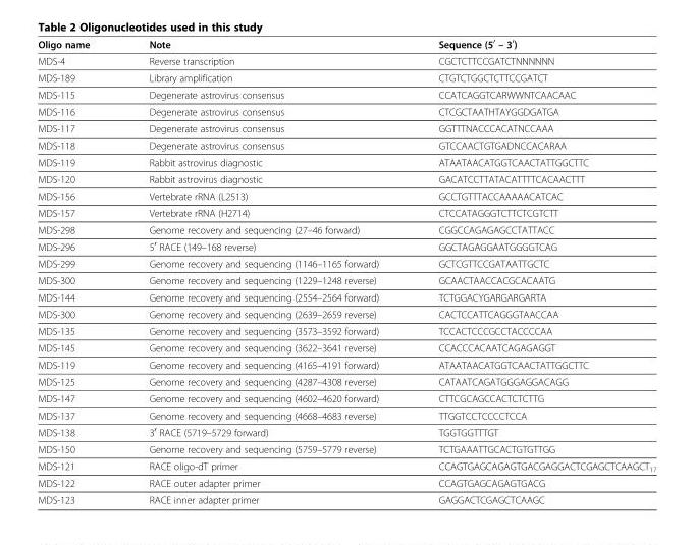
<table><thead><tr><td>Oligo name</td><td>Note</td><td>Sequence (5<sup>′</sup> – 3<sup>′</sup>)</td></tr></thead><tbody><tr><td>MDS-4</td><td>Reverse transcription</td><td>CGCTCTTCCGATCTNNNNNN</td></tr><tr><td>MDS-189</td><td>Library amplification</td><td>CTGTCTGGCTCTTCCGATCT</td></tr><tr><td>MDS-115</td><td>Degenerate astrovirus consensus</td><td>CCATCAGGTCARWWNTCAACAAC</td></tr><tr><td>MDS-116</td><td>Degenerate astrovirus consensus</td><td>CTCGCTAATHTAYGGDGATGA</td></tr><tr><td>MDS-117</td><td>Degenerate astrovirus consensus</td><td>GGTTTNACCCACATNCCAAA</td></tr><tr><td>MDS-118</td><td>Degenerate astrovirus consensus</td><td>GTCCAACTGTGADNCCACARAA</td></tr><tr><td>MDS-119</td><td>Rabbit astrovirus diagnostic</td><td>ATAATAACATGGTCAACTATTGGCTTC</td></tr><tr><td>MDS-120</td><td>Rabbit astrovirus diagnostic</td><td>GACATCCTTATACATTTTCACAACTTT</td></tr><tr><td>MDS-156</td><td>Vertebrate rRNA (L2513)</td><td>GCCTGTTTACCAAAAACATCAC</td></tr><tr><td>MDS-157</td><td>Vertebrate rRNA (H2714)</td><td>CTCCATAGGGTCTTCTCGTCTT</td></tr><tr><td>MDS-298</td><td>Genome recovery and sequencing (27–46 forward)</td><td>CGGCCAGAGAGCCTATTACC</td></tr><tr><td>MDS-296</td><td>5<sup>′</sup> RACE (149–168 reverse)</td><td>GGCTAGAGGAATGGGGTCAG</td></tr><tr><td>MDS-299</td><td>Genome recovery and sequencing (1146–1165 forward)</td><td>GCTCGTTCCGATAATTGCTC</td></tr><tr><td>MDS-300</td><td>Genome recovery and sequencing (1229–1248 reverse)</td><td>GCAACTAACCACGCACAATG</td></tr><tr><td>MDS-144</td><td>Genome recovery and sequencing (2554–2564 forward)</td><td>TCTGGACYGARGARGARTA</td></tr><tr><td>MDS-300</td><td>Genome recovery and sequencing (2639–2659 reverse)</td><td>CACTCCATTCAGGGTAACCAA</td></tr><tr><td>MDS-135</td><td>Genome recovery and sequencing (3573–3592 forward)</td><td>TCCACTCCCGCCTACCCCAA</td></tr><tr><td>MDS-145</td><td>Genome recovery and sequencing (3622–3641 reverse)</td><td>CCACCCACAATCAGAGAGGT</td></tr><tr><td>MDS-119</td><td>Genome recovery and sequencing (4165–4191 forward)</td><td>ATAATAACATGGTCAACTATTGGCTTC</td></tr><tr><td>MDS-125</td><td>Genome recovery and sequencing (4287–4308 reverse)</td><td>CATAATCAGATGGGAGGACAGG</td></tr><tr><td>MDS-147</td><td>Genome recovery and sequencing (4602–4620 forward)</td><td>CTTCGCAGCCACTCTCTTG</td></tr><tr><td>MDS-137</td><td>Genome recovery and sequencing (4668–4683 reverse)</td><td>TTGGTCCTCCCCTCCA</td></tr><tr><td>MDS-138</td><td>3<sup>′</sup> RACE (5719–5729 forward)</td><td>TGGTGGTTTGT</td></tr><tr><td>MDS-150</td><td>Genome recovery and sequencing (5759–5779 reverse)</td><td>TCTGAAATTGCACTGTGTTGG</td></tr><tr><td>MDS-121</td><td>RACE oligo-dT primer</td><td>CCAGTGAGCAGAGTGACGAGGACTCGAGCTCAAGCT<sub>17</sub></td></tr><tr><td>MDS-122</td><td>RACE outer adapter primer</td><td>CCAGTGAGCAGAGTGACG</td></tr><tr><td>MDS-123</td><td>RACE inner adapter primer</td><td>GAGGACTCGAGCTCAAGC</td></tr></tbody></table>